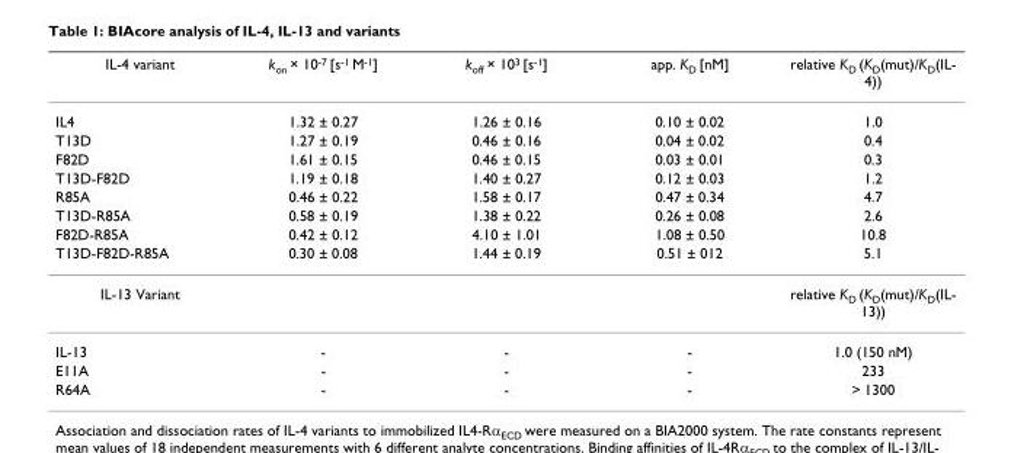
<table><thead><tr><td>IL-4 variant</td><td>k<sub>on</sub> × 10<sup>-7</sup> [s<sup>-1</sup> M<sup>-1</sup>]</td><td>k<sub>off</sub> × 10<sup>3</sup> [s<sup>-1</sup>]</td><td>app. K<sub>D</sub> [nM]</td><td>relative K<sub>D</sub> (K<sub>D</sub>(mut)/K<sub>D</sub>(IL- 4))</td></tr></thead><tbody><tr><td>IL4</td><td>1.32 ± 0.27</td><td>1.26 ± 0.16</td><td>0.10 ± 0.02</td><td>1.0</td></tr><tr><td>T13D</td><td>1.27 ± 0.19</td><td>0.46 ± 0.16</td><td>0.04 ± 0.02</td><td>0.4</td></tr><tr><td>F82D</td><td>1.61 ± 0.15</td><td>0.46 ± 0.15</td><td>0.03 ± 0.01</td><td>0.3</td></tr><tr><td>T13D-F82D</td><td>1.19 ± 0.18</td><td>1.40 ± 0.27</td><td>0.12 ± 0.03</td><td>1.2</td></tr><tr><td>R85A</td><td>0.46 ± 0.22</td><td>1.58 ± 0.17</td><td>0.47 ± 0.34</td><td>4.7</td></tr><tr><td>T13D-R85A</td><td>0.58 ± 0.19</td><td>1.38 ± 0.22</td><td>0.26 ± 0.08</td><td>2.6</td></tr><tr><td>F82D-R85A</td><td>0.42 ± 0.12</td><td>4.10 ± 1.01</td><td>1.08 ± 0.50</td><td>10.8</td></tr><tr><td>T13D-F82D-R85A</td><td>0.30 ± 0.08</td><td>1.44 ± 0.19</td><td>0.51 ± 012</td><td>5.1</td></tr><tr><td>IL-13 Variant</td><td></td><td></td><td></td><td>relative K<sub>D</sub> (K<sub>D</sub>(mut)/K<sub>D</sub>(IL- 13))</td></tr><tr><td>IL-13</td><td>-</td><td>-</td><td>-</td><td>1.0 (150 nM)</td></tr><tr><td>E11A</td><td>-</td><td>-</td><td>-</td><td>233</td></tr><tr><td>R64A</td><td>-</td><td>-</td><td>-</td><td>&gt; 1300</td></tr></tbody></table>